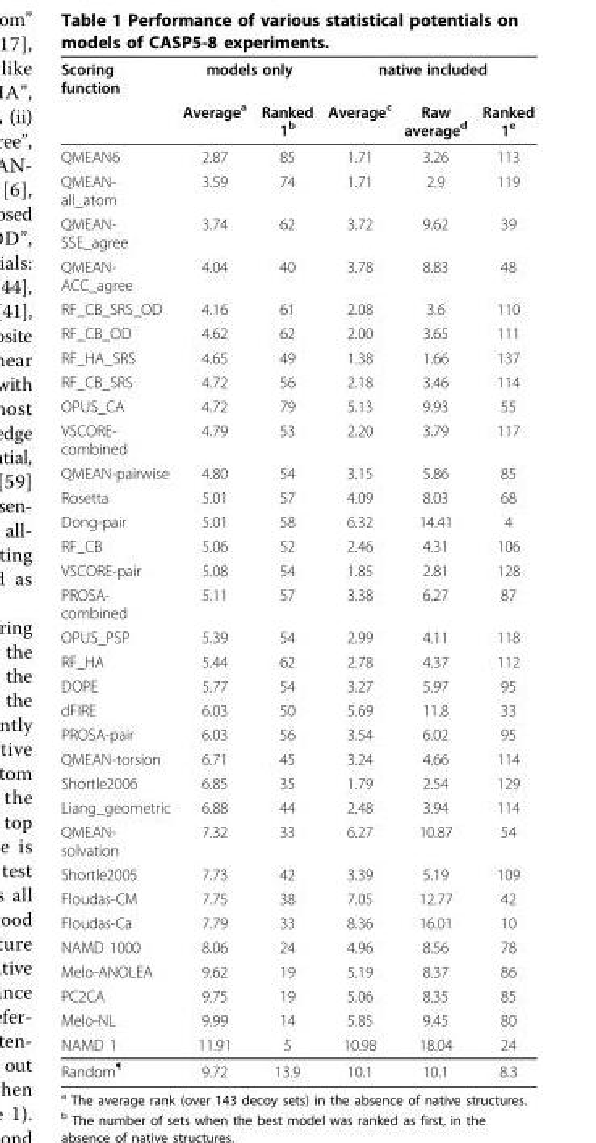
<table><thead><tr><td rowspan="2">Scoring function</td><td colspan="2">models only</td><td colspan="3">native included</td></tr><tr><td>Average<sup>a</sup></td><td>Ranked 1<sup>b</sup></td><td>Average<sup>c</sup></td><td>Raw average<sup>d</sup></td><td>Ranked 1<sup>e</sup></td></tr></thead><tbody><tr><td>QMEAN6</td><td>2.87</td><td>85</td><td>1.71</td><td>3.26</td><td>113</td></tr><tr><td>QMEAN- all_atom</td><td>3.59</td><td>74</td><td>1.71</td><td>2.9</td><td>119</td></tr><tr><td>QMEAN- SSE_agree</td><td>3.74</td><td>62</td><td>3.72</td><td>9.62</td><td>39</td></tr><tr><td>QMEAN- ACC_agree</td><td>4.04</td><td>40</td><td>3.78</td><td>8.83</td><td>48</td></tr><tr><td>RF_CB_SRS_OD</td><td>4.16</td><td>61</td><td>2.08</td><td>3.6</td><td>110</td></tr><tr><td>RF_CB_OD</td><td>4.62</td><td>62</td><td>2.00</td><td>3.65</td><td>111</td></tr><tr><td>RF_HA_SRS</td><td>4.65</td><td>49</td><td>1.38</td><td>1.66</td><td>137</td></tr><tr><td>RF_CB_SRS</td><td>4.72</td><td>56</td><td>2.18</td><td>3.46</td><td>114</td></tr><tr><td>OPUS_CA</td><td>4.72</td><td>79</td><td>5.13</td><td>9.93</td><td>55</td></tr><tr><td>VSCORE- combined</td><td>4.79</td><td>53</td><td>2.20</td><td>3.79</td><td>117</td></tr><tr><td>QMEAN-pairwise</td><td>4.80</td><td>54</td><td>3.15</td><td>5.86</td><td>85</td></tr><tr><td>Rosetta</td><td>5.01</td><td>57</td><td>4.09</td><td>8.03</td><td>68</td></tr><tr><td>Dong-pair</td><td>5.01</td><td>58</td><td>6.32</td><td>14.41</td><td>4</td></tr><tr><td>RF_CB</td><td>5.06</td><td>52</td><td>2.46</td><td>4.31</td><td>106</td></tr><tr><td>VSCORE-pair</td><td>5.08</td><td>54</td><td>1.85</td><td>2.81</td><td>128</td></tr><tr><td>PROSA- combined</td><td>5.11</td><td>57</td><td>3.38</td><td>6.27</td><td>87</td></tr><tr><td>OPUS_PSP</td><td>5.39</td><td>54</td><td>2.99</td><td>4.11</td><td>118</td></tr><tr><td>RF_HA</td><td>5.44</td><td>62</td><td>2.78</td><td>4.37</td><td>112</td></tr><tr><td>DOPE</td><td>5.77</td><td>54</td><td>3.27</td><td>5.97</td><td>95</td></tr><tr><td>dFIRE</td><td>6.03</td><td>50</td><td>5.69</td><td>11.8</td><td>33</td></tr><tr><td>PROSA-pair</td><td>6.03</td><td>56</td><td>3.54</td><td>6.02</td><td>95</td></tr><tr><td>QMEAN-torsion</td><td>6.71</td><td>45</td><td>3.24</td><td>4.66</td><td>114</td></tr><tr><td>Shortle2006</td><td>6.85</td><td>35</td><td>1.79</td><td>2.54</td><td>129</td></tr><tr><td>Liang_geometric</td><td>6.88</td><td>44</td><td>2.48</td><td>3.94</td><td>114</td></tr><tr><td>QMEAN- solvation</td><td>7.32</td><td>33</td><td>6.27</td><td>10.87</td><td>54</td></tr><tr><td>Shortle2005</td><td>7.73</td><td>42</td><td>3.39</td><td>5.19</td><td>109</td></tr><tr><td>Floudas-CM</td><td>7.75</td><td>38</td><td>7.05</td><td>12.77</td><td>42</td></tr><tr><td>Floudas-Ca</td><td>7.79</td><td>33</td><td>8.36</td><td>16.01</td><td>10</td></tr><tr><td>NAMD 1000</td><td>8.06</td><td>24</td><td>4.96</td><td>8.56</td><td>78</td></tr><tr><td>Melo-ANOLEA</td><td>9.62</td><td>19</td><td>5.19</td><td>8.37</td><td>86</td></tr><tr><td>PC2CA</td><td>9.75</td><td>19</td><td>5.06</td><td>8.35</td><td>85</td></tr><tr><td>Melo-NL</td><td>9.99</td><td>14</td><td>5.85</td><td>9.45</td><td>80</td></tr><tr><td>NAMD 1</td><td>11.91</td><td>5</td><td>10.98</td><td>18.04</td><td>24</td></tr><tr><td>Random<sup>¶</sup></td><td>9.72</td><td>13.9</td><td>10.1</td><td>10.1</td><td>8.3</td></tr></tbody></table>